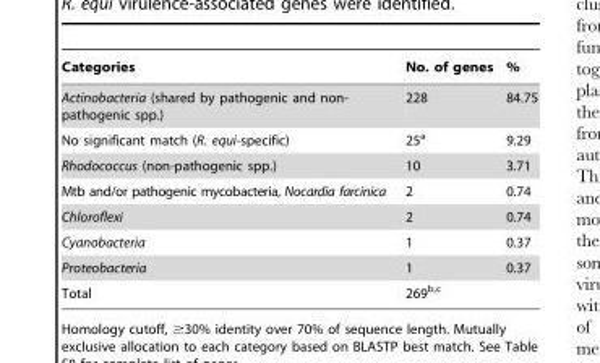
<table><thead><tr><td>Categories</td><td>No. of genes</td><td>%</td></tr></thead><tbody><tr><td>Actinobacteria (shared by pathogenic and non- pathogenic spp.)</td><td>228</td><td>84.75</td></tr><tr><td>No significant match (R. equi-specific)</td><td>25<sup>a</sup></td><td>9.29</td></tr><tr><td>Rhodococcus (non-pathogenic spp.)</td><td>10</td><td>3.71</td></tr><tr><td>Mtb and/or pathogenic mycobacteria, Nocardia farcinica</td><td>2</td><td>0.74</td></tr><tr><td>Chloroflexi</td><td>2</td><td>0.74</td></tr><tr><td>Cyanobacteria</td><td>1</td><td>0.37</td></tr><tr><td>Proteobacteria</td><td>1</td><td>0.37</td></tr><tr><td>Total</td><td>269<sup>b,</sup>c</td><td></td></tr></tbody></table>